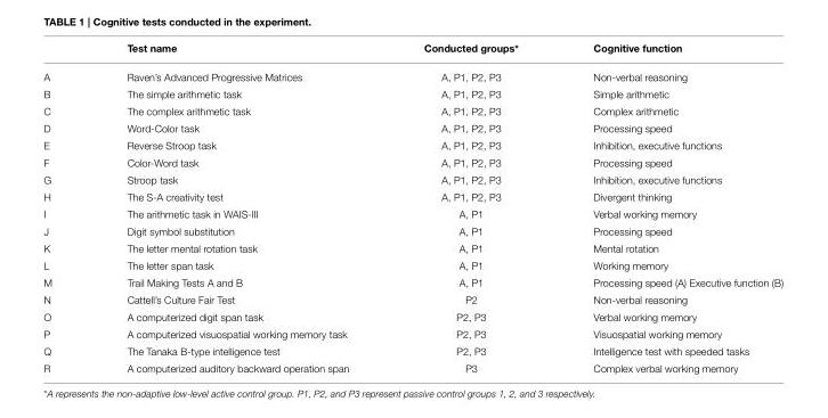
<table><thead><tr><td></td><td>Test name</td><td>Conducted groups*</td><td>Cognitive function</td></tr></thead><tbody><tr><td>A</td><td>Raven’s Advanced Progressive Matrices</td><td>A, P1, P2, P3</td><td>Non-verbal reasoning</td></tr><tr><td>B</td><td>The simple arithmetic task</td><td>A, P1, P2, P3</td><td>Simple arithmetic</td></tr><tr><td>C</td><td>The complex arithmetic task</td><td>A, P1, P2, P3</td><td>Complex arithmetic</td></tr><tr><td>D</td><td>Word-Color task</td><td>A, P1, P2, P3</td><td>Processing speed</td></tr><tr><td>E</td><td>Reverse Stroop task</td><td>A, P1, P2, P3</td><td>Inhibition, executive functions</td></tr><tr><td>F</td><td>Color-Word task</td><td>A, P1, P2, P3</td><td>Processing speed</td></tr><tr><td>G</td><td>Stroop task</td><td>A, P1, P2, P3</td><td>Inhibition, executive functions</td></tr><tr><td>H</td><td>The S-A creativity test</td><td>A, P1, P2, P3</td><td>Divergent thinking</td></tr><tr><td>I</td><td>The arithmetic task in WAIS-III</td><td>A, P1</td><td>Verbal working memory</td></tr><tr><td>J</td><td>Digit symbol substitution</td><td>A, P1</td><td>Processing speed</td></tr><tr><td>K</td><td>The letter mental rotation task</td><td>A, P1</td><td>Mental rotation</td></tr><tr><td>L</td><td>The letter span task</td><td>A, P1</td><td>Working memory</td></tr><tr><td>M</td><td>Trail Making Tests A and B</td><td>A, P1</td><td>Processing speed (A) Executive function (B)</td></tr><tr><td>N</td><td>Cattell’s Culture Fair Test</td><td>P2</td><td>Non-verbal reasoning</td></tr><tr><td>O</td><td>A computerized digit span task</td><td>P2, P3</td><td>Verbal working memory</td></tr><tr><td>P</td><td>A computerized visuospatial working memory task</td><td>P2, P3</td><td>Visuospatial working memory</td></tr><tr><td>Q</td><td>The Tanaka B-type intelligence test</td><td>P2, P3</td><td>Intelligence test with speeded tasks</td></tr><tr><td>R</td><td>A computerized auditory backward operation span</td><td>P3</td><td>Complex verbal working memory</td></tr></tbody></table>